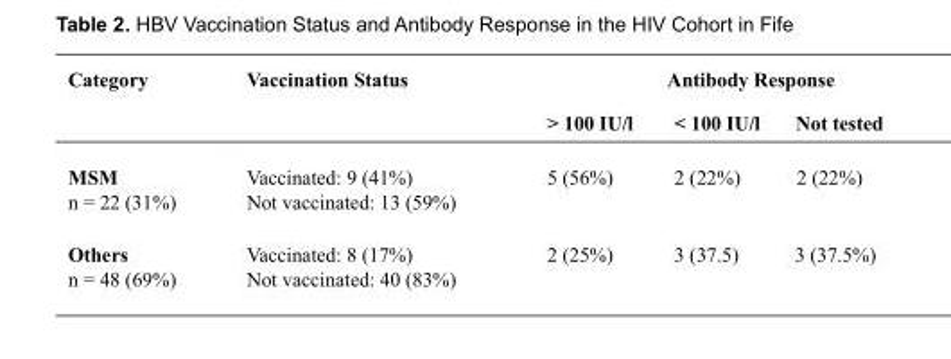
<table><thead><tr><td rowspan="2">Category</td><td rowspan="2">Vaccination Status</td><td colspan="3">Antibody Response</td></tr><tr><td>&gt; 100 IU/l</td><td>&lt; 100 IU/l</td><td>Not tested</td></tr></thead><tbody><tr><td>MSM n = 22 (31%)</td><td>Vaccinated: 9 (41%) Not vaccinated: 13 (59%)</td><td>5 (56%)</td><td>2 (22%)</td><td>2 (22%)</td></tr><tr><td>Others n = 48 (69%)</td><td>Vaccinated: 8 (17%) Not vaccinated: 40 (83%)</td><td>2 (25%)</td><td>3 (37.5)</td><td>3 (37.5%)</td></tr></tbody></table>